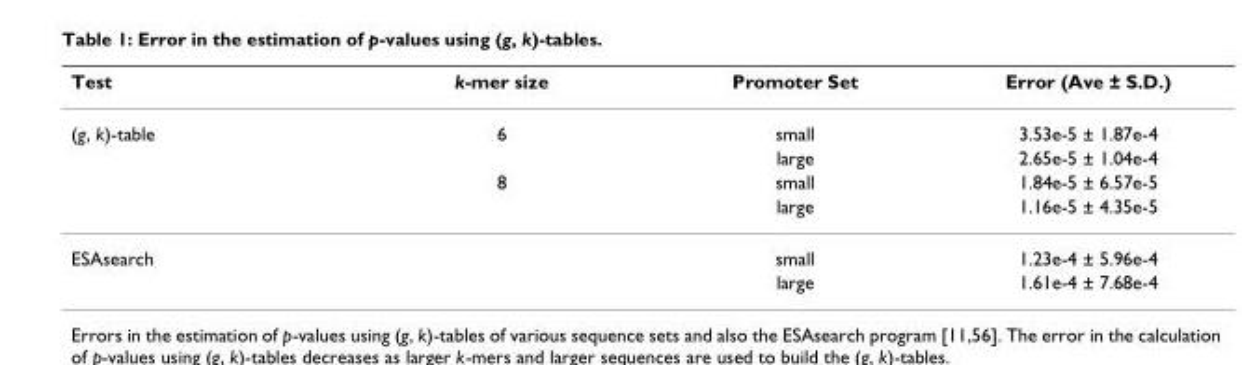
<table><thead><tr><td>Test</td><td>k-mer size</td><td>Promoter Set</td><td>Error (Ave ± S.D.)</td></tr></thead><tbody><tr><td rowspan="4">(g, k)-table</td><td>6</td><td>small</td><td>3.53e-5 ± 1.87e-4</td></tr><tr><td></td><td>large</td><td>2.65e-5 ± 1.04e-4</td></tr><tr><td>8</td><td>small</td><td>1.84e-5 ± 6.57e-5</td></tr><tr><td></td><td>large</td><td>1.16e-5 ± 4.35e-5</td></tr><tr><td rowspan="2">ESAsearch</td><td></td><td>small</td><td>1.23e-4 ± 5.96e-4</td></tr><tr><td></td><td>large</td><td>1.61e-4 ± 7.68e-4</td></tr></tbody></table>